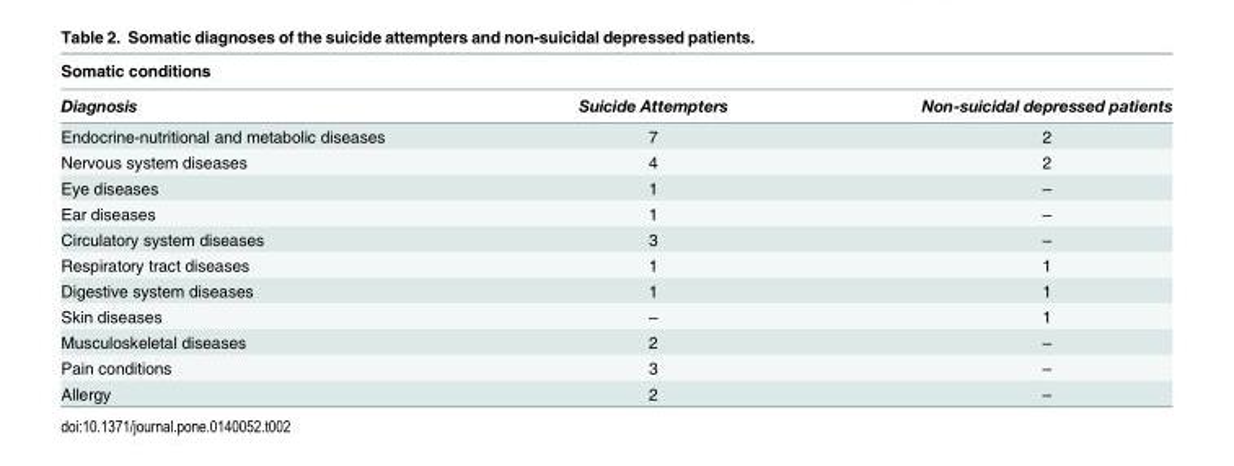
<table><thead><tr><td colspan="3">Somatic conditions</td></tr><tr><td>Diagnosis</td><td>Suicide Attempters</td><td>Non-suicidal depressed patients</td></tr></thead><tbody><tr><td>Endocrine-nutritional and metabolic diseases</td><td>7</td><td>2</td></tr><tr><td>Nervous system diseases</td><td>4</td><td>2</td></tr><tr><td>Eye diseases</td><td>1</td><td>–</td></tr><tr><td>Ear diseases</td><td>1</td><td>–</td></tr><tr><td>Circulatory system diseases</td><td>3</td><td>–</td></tr><tr><td>Respiratory tract diseases</td><td>1</td><td>1</td></tr><tr><td>Digestive system diseases</td><td>1</td><td>1</td></tr><tr><td>Skin diseases</td><td>–</td><td>1</td></tr><tr><td>Musculoskeletal diseases</td><td>2</td><td>–</td></tr><tr><td>Pain conditions</td><td>3</td><td>–</td></tr><tr><td>Allergy</td><td>2</td><td>–</td></tr></tbody></table>